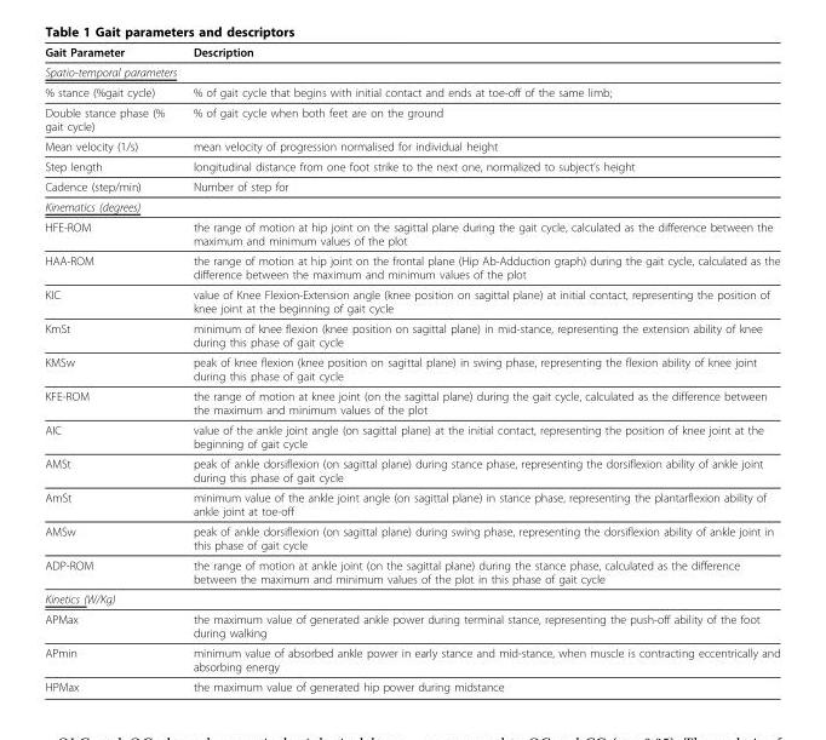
<table><thead><tr><td>Gait Parameter</td><td>Description</td></tr></thead><tbody><tr><td colspan="2">Spatio-temporal parameters</td></tr><tr><td>% stance (%gait cycle)</td><td>% of gait cycle that begins with initial contact and ends at toe-off of the same limb;</td></tr><tr><td>Double stance phase (% gait cycle)</td><td>% of gait cycle when both feet are on the ground</td></tr><tr><td>Mean velocity (1/s)</td><td>mean velocity of progression normalised for individual height</td></tr><tr><td>Step length</td><td>longitudinal distance from one foot strike to the next one, normalized to subject’s height</td></tr><tr><td>Cadence (step/min)</td><td>Number of step for</td></tr><tr><td colspan="2">Kinematics (degrees)</td></tr><tr><td>HFE-ROM</td><td>the range of motion at hip joint on the sagittal plane during the gait cycle, calculated as the difference between the maximum and minimum values of the plot</td></tr><tr><td>HAA-ROM</td><td>the range of motion at hip joint on the frontal plane (Hip Ab-Adduction graph) during the gait cycle, calculated as the difference between the maximum and minimum values of the plot</td></tr><tr><td>KIC</td><td>value of Knee Flexion-Extension angle (knee position on sagittal plane) at initial contact, representing the position of knee joint at the beginning of gait cycle</td></tr><tr><td>KmSt</td><td>minimum of knee flexion (knee position on sagittal plane) in mid-stance, representing the extension ability of knee during this phase of gait cycle</td></tr><tr><td>KMSw</td><td>peak of knee flexion (knee position on sagittal plane) in swing phase, representing the flexion ability of knee joint during this phase of gait cycle</td></tr><tr><td>KFE-ROM</td><td>the range of motion at knee joint (on the sagittal plane) during the gait cycle, calculated as the difference between the maximum and minimum values of the plot</td></tr><tr><td>AIC</td><td>value of the ankle joint angle (on sagittal plane) at the initial contact, representing the position of knee joint at the beginning of gait cycle</td></tr><tr><td>AMSt</td><td>peak of ankle dorsiflexion (on sagittal plane) during stance phase, representing the dorsiflexion ability of ankle joint during this phase of gait cycle</td></tr><tr><td>AmSt</td><td>minimum value of the ankle joint angle (on sagittal plane) in stance phase, representing the plantarflexion ability of ankle joint at toe-off</td></tr><tr><td>AMSw</td><td>peak of ankle dorsiflexion (on sagittal plane) during swing phase, representing the dorsiflexion ability of ankle joint in this phase of gait cycle</td></tr><tr><td>ADP-ROM</td><td>the range of motion at ankle joint (on the sagittal plane) during the stance phase, calculated as the difference between the maximum and minimum values of the plot in this phase of gait cycle</td></tr><tr><td colspan="2">Kinetics (W/Kg)</td></tr><tr><td>APMax</td><td>the maximum value of generated ankle power during terminal stance, representing the push-off ability of the foot during walking</td></tr><tr><td>APmin</td><td>minimum value of absorbed ankle power in early stance and mid-stance, when muscle is contracting eccentrically and absorbing energy</td></tr><tr><td>HPMax</td><td>the maximum value of generated hip power during midstance</td></tr></tbody></table>